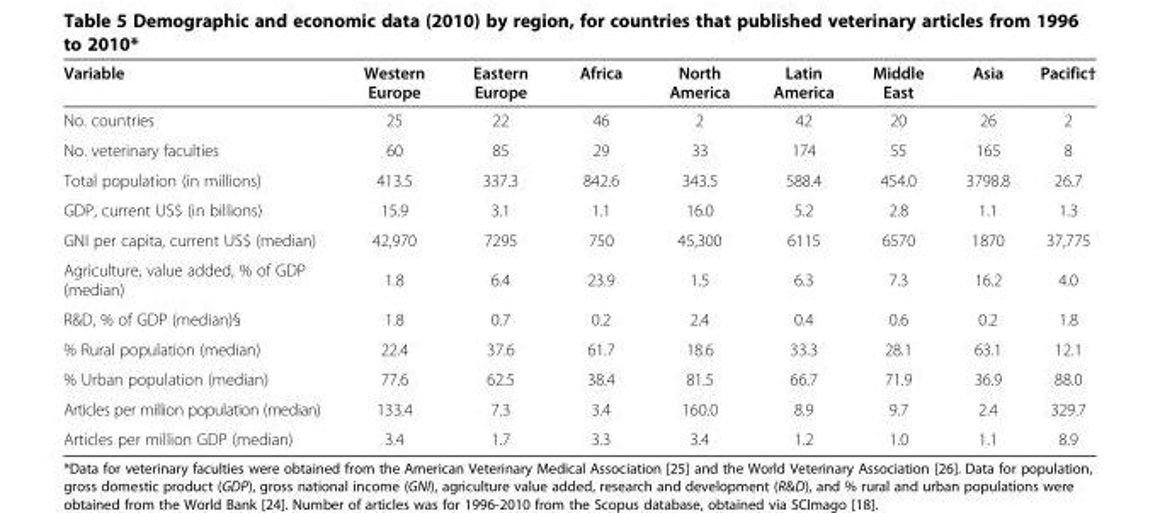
<table><thead><tr><td>Variable</td><td>Western Europe</td><td>Eastern Europe</td><td>Africa</td><td>North America</td><td>Latin America</td><td>Middle East</td><td>Asia</td><td>Pacific†</td></tr></thead><tbody><tr><td>No. countries</td><td>25</td><td>22</td><td>46</td><td>2</td><td>42</td><td>20</td><td>26</td><td>2</td></tr><tr><td>No. veterinary faculties</td><td>60</td><td>85</td><td>29</td><td>33</td><td>174</td><td>55</td><td>165</td><td>8</td></tr><tr><td>Total population (in millions)</td><td>413.5</td><td>337.3</td><td>842.6</td><td>343.5</td><td>588.4</td><td>454.0</td><td>3798.8</td><td>26.7</td></tr><tr><td>GDP, current US$ (in billions)</td><td>15.9</td><td>3.1</td><td>1.1</td><td>16.0</td><td>5.2</td><td>2.8</td><td>1.1</td><td>1.3</td></tr><tr><td>GNI per capita, current US$ (median)</td><td>42,970</td><td>7295</td><td>750</td><td>45,300</td><td>6115</td><td>6570</td><td>1870</td><td>37,775</td></tr><tr><td>Agriculture, value added, % of GDP (median)</td><td>1.8</td><td>6.4</td><td>23.9</td><td>1.5</td><td>6.3</td><td>7.3</td><td>16.2</td><td>4.0</td></tr><tr><td>R&amp;D, % of GDP (median)§</td><td>1.8</td><td>0.7</td><td>0.2</td><td>2.4</td><td>0.4</td><td>0.6</td><td>0.2</td><td>1.8</td></tr><tr><td>% Rural population (median)</td><td>22.4</td><td>37.6</td><td>61.7</td><td>18.6</td><td>33.3</td><td>28.1</td><td>63.1</td><td>12.1</td></tr><tr><td>% Urban population (median)</td><td>77.6</td><td>62.5</td><td>38.4</td><td>81.5</td><td>66.7</td><td>71.9</td><td>36.9</td><td>88.0</td></tr><tr><td>Articles per million population (median)</td><td>133.4</td><td>7.3</td><td>3.4</td><td>160.0</td><td>8.9</td><td>9.7</td><td>2.4</td><td>329.7</td></tr><tr><td>Articles per million GDP (median)</td><td>3.4</td><td>1.7</td><td>3.3</td><td>3.4</td><td>1.2</td><td>1.0</td><td>1.1</td><td>8.9</td></tr></tbody></table>